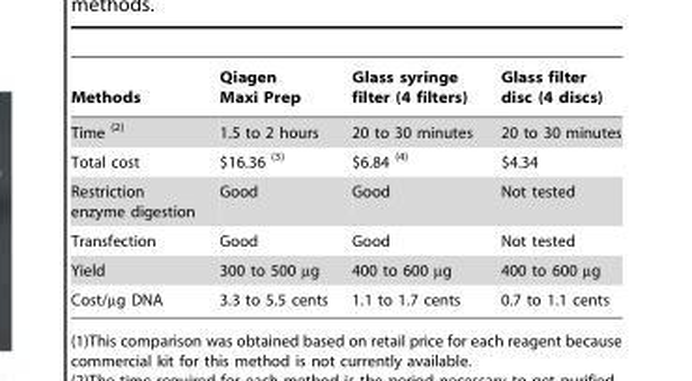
<table><thead><tr><td>Methods</td><td>Qiagen Maxi Prep</td><td>Glass syringe filter (4 filters)</td><td>Glass filter disc (4 discs)</td></tr></thead><tbody><tr><td>Time <sup>(2)</sup></td><td>1.5 to 2 hours</td><td>20 to 30 minutes</td><td>20 to 30 minutes</td></tr><tr><td>Total cost</td><td>$16.36 <sup>(3)</sup></td><td>$6.84 <sup>(4)</sup></td><td>$4.34</td></tr><tr><td>Restriction enzyme digestion</td><td>Good</td><td>Good</td><td>Not tested</td></tr><tr><td>Transfection</td><td>Good</td><td>Good</td><td>Not tested</td></tr><tr><td>Yield</td><td>300 to 500 µg</td><td>400 to 600 µg</td><td>400 to 600 µg</td></tr><tr><td>Cost/µg DNA</td><td>3.3 to 5.5 cents</td><td>1.1 to 1.7 cents</td><td>0.7 to 1.1 cents</td></tr></tbody></table>